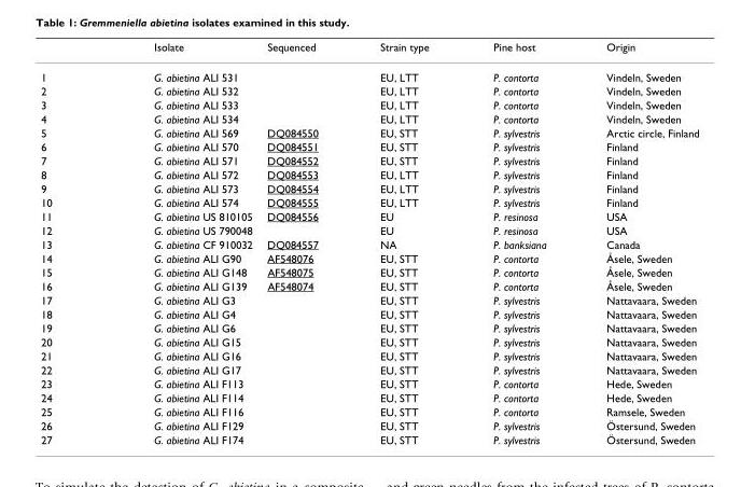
<table><thead><tr><td></td><td>Isolate</td><td>Sequenced</td><td>Strain type</td><td>Pine host</td><td>Origin</td></tr></thead><tbody><tr><td>1</td><td>G. abietina ALI 531</td><td></td><td>EU, LTT</td><td>P. contorta</td><td>Vindeln, Sweden</td></tr><tr><td>2</td><td>G. abietina ALI 532</td><td></td><td>EU, LTT</td><td>P. contorta</td><td>Vindeln, Sweden</td></tr><tr><td>3</td><td>G. abietina ALI 533</td><td></td><td>EU, LTT</td><td>P. contorta</td><td>Vindeln, Sweden</td></tr><tr><td>4</td><td>G. abietina ALI 534</td><td></td><td>EU, LTT</td><td>P. contorta</td><td>Vindeln, Sweden</td></tr><tr><td>5</td><td>G. abietina ALI 569</td><td>DQ084550</td><td>EU, STT</td><td>P. sylvestris</td><td>Arctic circle, Finland</td></tr><tr><td>6</td><td>G. abietina ALI 570</td><td>DQ084551</td><td>EU, STT</td><td>P. sylvestris</td><td>Finland</td></tr><tr><td>7</td><td>G. abietina ALI 571</td><td>DQ084552</td><td>EU, STT</td><td>P. sylvestris</td><td>Finland</td></tr><tr><td>8</td><td>G. abietina ALI 572</td><td>DQ084553</td><td>EU, LTT</td><td>P. sylvestris</td><td>Finland</td></tr><tr><td>9</td><td>G. abietina ALI 573</td><td>DQ084554</td><td>EU, LTT</td><td>P. sylvestris</td><td>Finland</td></tr><tr><td>10</td><td>G. abietina ALI 574</td><td>DQ084555</td><td>EU, LTT</td><td>P. sylvestris</td><td>Finland</td></tr><tr><td>11</td><td>G. abietina US 810105</td><td>DQ084556</td><td>EU</td><td>P. resinosa</td><td>USA</td></tr><tr><td>12</td><td>G. abietina US 790048</td><td></td><td>EU</td><td>P. resinosa</td><td>USA</td></tr><tr><td>13</td><td>G. abietina CF 910032</td><td>DQ084557</td><td>NA</td><td>P. banksiana</td><td>Canada</td></tr><tr><td>14</td><td>G. abietina ALI G90</td><td>AF548076</td><td>EU, STT</td><td>P. contorta</td><td>Åsele, Sweden</td></tr><tr><td>15</td><td>G. abietina ALI G148</td><td>AF548075</td><td>EU, STT</td><td>P. contorta</td><td>Åsele, Sweden</td></tr><tr><td>16</td><td>G. abietina ALI G139</td><td>AF548074</td><td>EU, STT</td><td>P. contorta</td><td>Åsele, Sweden</td></tr><tr><td>17</td><td>G. abietina ALI G3</td><td></td><td>EU, STT</td><td>P. sylvestris</td><td>Nattavaara, Sweden</td></tr><tr><td>18</td><td>G. abietina ALI G4</td><td></td><td>EU, STT</td><td>P. sylvestris</td><td>Nattavaara, Sweden</td></tr><tr><td>19</td><td>G. abietina ALI G6</td><td></td><td>EU, STT</td><td>P. sylvestris</td><td>Nattavaara, Sweden</td></tr><tr><td>20</td><td>G. abietina ALI G15</td><td></td><td>EU, STT</td><td>P. sylvestris</td><td>Nattavaara, Sweden</td></tr><tr><td>21</td><td>G. abietina ALI G16</td><td></td><td>EU, STT</td><td>P. sylvestris</td><td>Nattavaara, Sweden</td></tr><tr><td>22</td><td>G. abietina ALI G17</td><td></td><td>EU, STT</td><td>P. sylvestris</td><td>Nattavaara, Sweden</td></tr><tr><td>23</td><td>G. abietina ALI F113</td><td></td><td>EU, STT</td><td>P. contorta</td><td>Hede, Sweden</td></tr><tr><td>24</td><td>G. abietina ALI F114</td><td></td><td>EU, STT</td><td>P. contorta</td><td>Hede, Sweden</td></tr><tr><td>25</td><td>G. abietina ALI F116</td><td></td><td>EU, STT</td><td>P. contorta</td><td>Ramsele, Sweden</td></tr><tr><td>26</td><td>G. abietina ALI F129</td><td></td><td>EU, STT</td><td>P. sylvestris</td><td>Östersund, Sweden</td></tr><tr><td>27</td><td>G. abietina ALI F174</td><td></td><td>EU, STT</td><td>P. sylvestris</td><td>Östersund, Sweden</td></tr></tbody></table>